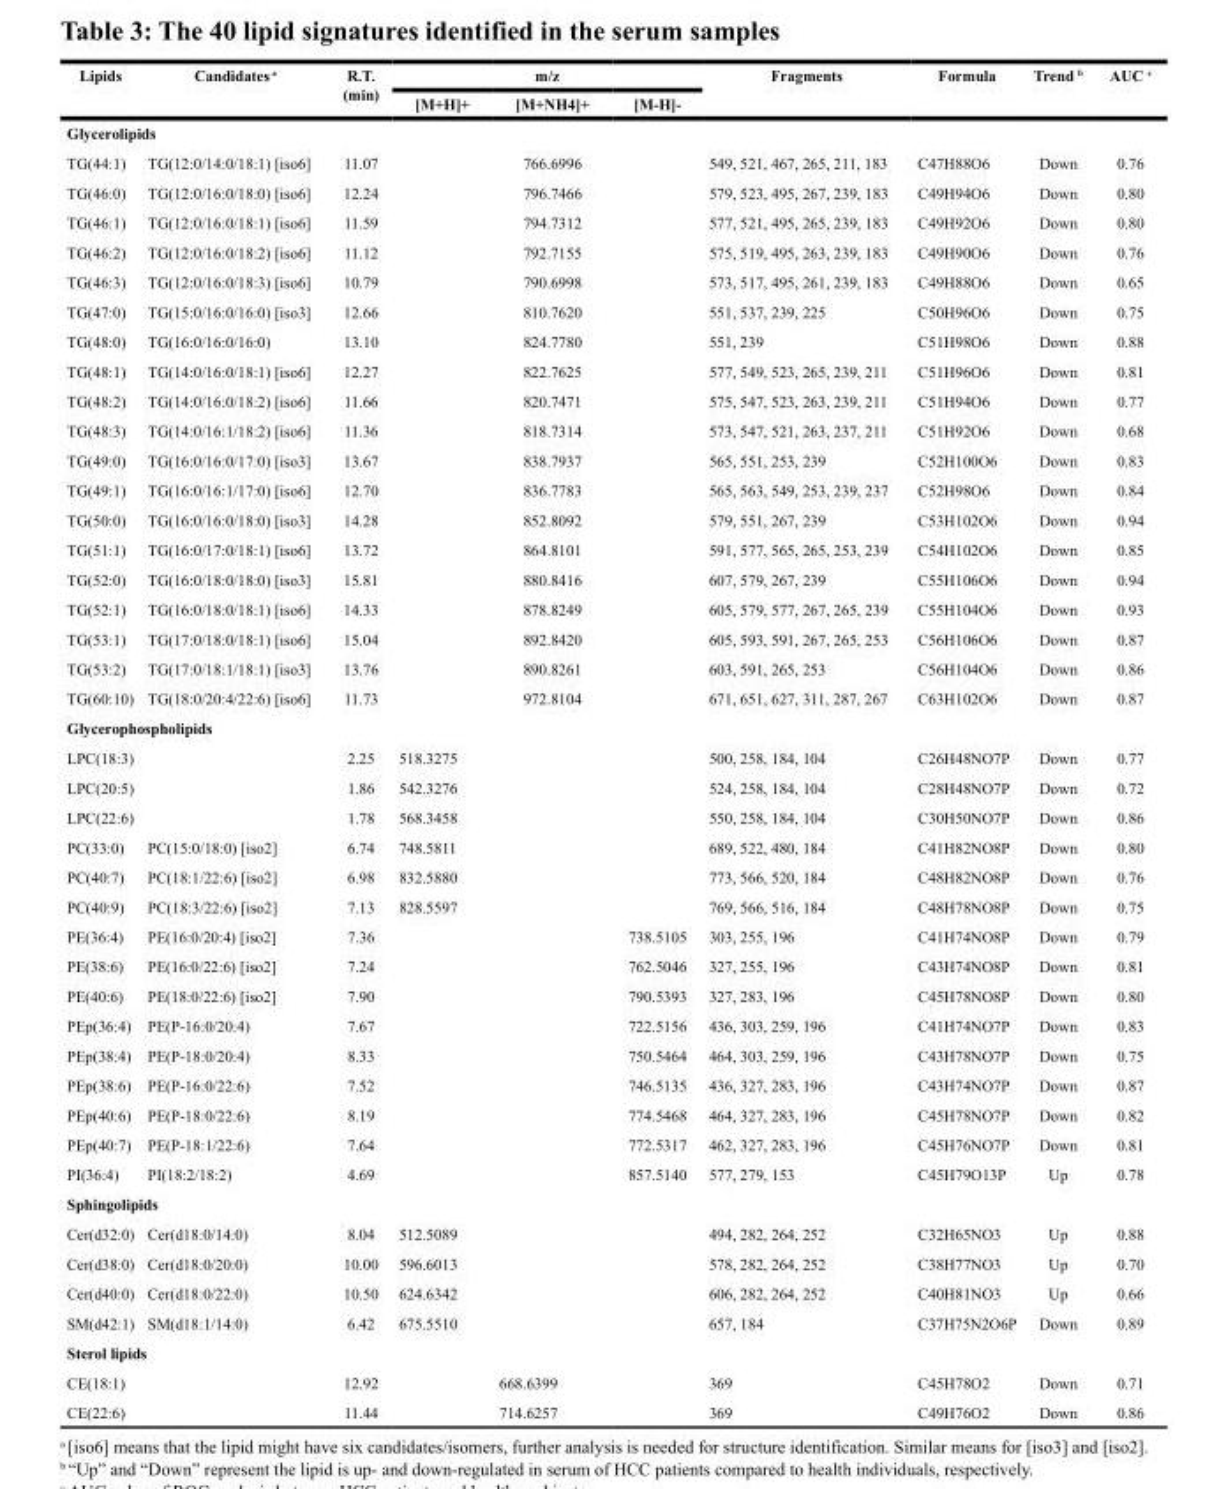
<table><thead><tr><td rowspan="2">Lipids</td><td rowspan="2">Candidates <sup>a</sup></td><td rowspan="2">R.T. (min)</td><td colspan="3">m/z</td><td rowspan="2">Fragments</td><td rowspan="2">Formula</td><td rowspan="2">Trend <sup>b</sup></td><td rowspan="2">AUC <sup>c</sup></td></tr><tr><td>[M+H]+</td><td>[M+NH4]+</td><td>[M-H]-</td></tr></thead><tbody><tr><td colspan="10">Glycerolipids</td></tr><tr><td>TG(44:1)</td><td>TG(12:0/14:0/18:1) [iso6]</td><td>11.07</td><td></td><td>766.6996</td><td></td><td>549, 521, 467, 265, 211, 183</td><td>C47H88O6</td><td>Down</td><td>0.76</td></tr><tr><td>TG(46:0)</td><td>TG(12:0/16:0/18:0) [iso6]</td><td>12.24</td><td></td><td>796.7466</td><td></td><td>579, 523, 495, 267, 239, 183</td><td>C49H94O6</td><td>Down</td><td>0.80</td></tr><tr><td>TG(46:1)</td><td>TG(12:0/16:0/18:1) [iso6]</td><td>11.59</td><td></td><td>794.7312</td><td></td><td>577, 521, 495, 265, 239, 183</td><td>C49H92O6</td><td>Down</td><td>0.80</td></tr><tr><td>TG(46:2)</td><td>TG(12:0/16:0/18:2) [iso6]</td><td>11.12</td><td></td><td>792.7155</td><td></td><td>575, 519, 495, 263, 239, 183</td><td>C49H90O6</td><td>Down</td><td>0.76</td></tr><tr><td>TG(46:3)</td><td>TG(12:0/16:0/18:3) [iso6]</td><td>10.79</td><td></td><td>790.6998</td><td></td><td>573, 517, 495, 261, 239, 183</td><td>C49H88O6</td><td>Down</td><td>0.65</td></tr><tr><td>TG(47:0)</td><td>TG(15:0/16:0/16:0) [iso3]</td><td>12.66</td><td></td><td>810.7620</td><td></td><td>551, 537, 239, 225</td><td>C50H96O6</td><td>Down</td><td>0.75</td></tr><tr><td>TG(48:0)</td><td>TG(16:0/16:0/16:0)</td><td>13.10</td><td></td><td>824.7780</td><td></td><td>551, 239</td><td>C51H98O6</td><td>Down</td><td>0.88</td></tr><tr><td>TG(48:1)</td><td>TG(14:0/16:0/18:1) [iso6]</td><td>12.27</td><td></td><td>822.7625</td><td></td><td>577, 549, 523, 265, 239, 211</td><td>C51H96O6</td><td>Down</td><td>0.81</td></tr><tr><td>TG(48:2)</td><td>TG(14:0/16:0/18:2) [iso6]</td><td>11.66</td><td></td><td>820.7471</td><td></td><td>575, 547, 523, 263, 239, 211</td><td>C51H94O6</td><td>Down</td><td>0.77</td></tr><tr><td>TG(48:3)</td><td>TG(14:0/16:1/18:2) [iso6]</td><td>11.36</td><td></td><td>818.7314</td><td></td><td>573, 547, 521, 263, 237, 211</td><td>C51H92O6</td><td>Down</td><td>0.68</td></tr><tr><td>TG(49:0)</td><td>TG(16:0/16:0/17:0) [iso3]</td><td>13.67</td><td></td><td>838.7937</td><td></td><td>565, 551, 253, 239</td><td>C52H100O6</td><td>Down</td><td>0.83</td></tr><tr><td>TG(49:1)</td><td>TG(16:0/16:1/17:0) [iso6]</td><td>12.70</td><td></td><td>836.7783</td><td></td><td>565, 563, 549, 253, 239, 237</td><td>C52H98O6</td><td>Down</td><td>0.84</td></tr><tr><td>TG(50:0)</td><td>TG(16:0/16:0/18:0) [iso3]</td><td>14.28</td><td></td><td>852.8092</td><td></td><td>579, 551, 267, 239</td><td>C53H102O6</td><td>Down</td><td>0.94</td></tr><tr><td>TG(51:1)</td><td>TG(16:0/17:0/18:1) [iso6]</td><td>13.72</td><td></td><td>864.8101</td><td></td><td>591, 577, 565, 265, 253, 239</td><td>C54H102O6</td><td>Down</td><td>0.85</td></tr><tr><td>TG(52:0)</td><td>TG(16:0/18:0/18:0) [iso3]</td><td>15.81</td><td></td><td>880.8416</td><td></td><td>607, 579, 267, 239</td><td>C55H106O6</td><td>Down</td><td>0.94</td></tr><tr><td>TG(52:1)</td><td>TG(16:0/18:0/18:1) [iso6]</td><td>14.33</td><td></td><td>878.8249</td><td></td><td>605, 579, 577, 267, 265, 239</td><td>C55H104O6</td><td>Down</td><td>0.93</td></tr><tr><td>TG(53:1)</td><td>TG(17:0/18:0/18:1) [iso6]</td><td>15.04</td><td></td><td>892.8420</td><td></td><td>605, 593, 591, 267, 265, 253</td><td>C56H106O6</td><td>Down</td><td>0.87</td></tr><tr><td>TG(53:2)</td><td>TG(17:0/18:1/18:1) [iso3]</td><td>13.76</td><td></td><td>890.8261</td><td></td><td>603, 591, 265, 253</td><td>C56H104O6</td><td>Down</td><td>0.86</td></tr><tr><td>TG(60:10)</td><td>TG(18:0/20:4/22:6) [iso6]</td><td>11.73</td><td></td><td>972.8104</td><td></td><td>671, 651, 627, 311, 287, 267</td><td>C63H102O6</td><td>Down</td><td>0.87</td></tr><tr><td colspan="10">Glycerophospholipids</td></tr><tr><td>LPC(18:3)</td><td></td><td>2.25</td><td>518.3275</td><td></td><td></td><td>500, 258, 184, 104</td><td>C26H48NO7P</td><td>Down</td><td>0.77</td></tr><tr><td>LPC(20:5)</td><td></td><td>1.86</td><td>542.3276</td><td></td><td></td><td>524, 258, 184, 104</td><td>C28H48NO7P</td><td>Down</td><td>0.72</td></tr><tr><td>LPC(22:6)</td><td></td><td>1.78</td><td>568.3458</td><td></td><td></td><td>550, 258, 184, 104</td><td>C30H50NO7P</td><td>Down</td><td>0.86</td></tr><tr><td>PC(33:0)</td><td>PC(15:0/18:0) [iso2]</td><td>6.74</td><td>748.5811</td><td></td><td></td><td>689, 522, 480, 184</td><td>C41H82NO8P</td><td>Down</td><td>0.80</td></tr><tr><td>PC(40:7)</td><td>PC(18:1/22:6) [iso2]</td><td>6.98</td><td>832.5880</td><td></td><td></td><td>773, 566, 520, 184</td><td>C48H82NO8P</td><td>Down</td><td>0.76</td></tr><tr><td>PC(40:9)</td><td>PC(18:3/22:6) [iso2]</td><td>7.13</td><td>828.5597</td><td></td><td></td><td>769, 566, 516, 184</td><td>C48H78NO8P</td><td>Down</td><td>0.75</td></tr><tr><td>PE(36:4)</td><td>PE(16:0/20:4) [iso2]</td><td>7.36</td><td></td><td></td><td>738.5105</td><td>303, 255, 196</td><td>C41H74NO8P</td><td>Down</td><td>0.79</td></tr><tr><td>PE(38:6)</td><td>PE(16:0/22:6) [iso2]</td><td>7.24</td><td></td><td></td><td>762.5046</td><td>327, 255, 196</td><td>C43H74NO8P</td><td>Down</td><td>0.81</td></tr><tr><td>PE(40:6)</td><td>PE(18:0/22:6) [iso2]</td><td>7.90</td><td></td><td></td><td>790.5393</td><td>327, 283, 196</td><td>C45H78NO8P</td><td>Down</td><td>0.80</td></tr><tr><td>PEp(36:4)</td><td>PE(P-16:0/20:4)</td><td>7.67</td><td></td><td></td><td>722.5156</td><td>436, 303, 259, 196</td><td>C41H74NO7P</td><td>Down</td><td>0.83</td></tr><tr><td>PEp(38:4)</td><td>PE(P-18:0/20:4)</td><td>8.33</td><td></td><td></td><td>750.5464</td><td>464, 303, 259, 196</td><td>C43H78NO7P</td><td>Down</td><td>0.75</td></tr><tr><td>PEp(38:6)</td><td>PE(P-16:0/22:6)</td><td>7.52</td><td></td><td></td><td>746.5135</td><td>436, 327, 283, 196</td><td>C43H74NO7P</td><td>Down</td><td>0.87</td></tr><tr><td>PEp(40:6)</td><td>PE(P-18:0/22:6)</td><td>8.19</td><td></td><td></td><td>774.5468</td><td>464, 327, 283, 196</td><td>C45H78NO7P</td><td>Down</td><td>0.82</td></tr><tr><td>PEp(40:7)</td><td>PE(P-18:1/22:6)</td><td>7.64</td><td></td><td></td><td>772.5317</td><td>462, 327, 283, 196</td><td>C45H76NO7P</td><td>Down</td><td>0.81</td></tr><tr><td>PI(36:4)</td><td>PI(18:2/18:2)</td><td>4.69</td><td></td><td></td><td>857.5140</td><td>577, 279, 153</td><td>C45H79O13P</td><td>Up</td><td>0.78</td></tr><tr><td colspan="10">Sphingolipids</td></tr><tr><td>Cer(d32:0)</td><td>Cer(d18:0/14:0)</td><td>8.04</td><td>512.5089</td><td></td><td></td><td>494, 282, 264, 252</td><td>C32H65NO3</td><td>Up</td><td>0.88</td></tr><tr><td>Cer(d38:0)</td><td>Cer(d18:0/20:0)</td><td>10.00</td><td>596.6013</td><td></td><td></td><td>578, 282, 264, 252</td><td>C38H77NO3</td><td>Up</td><td>0.70</td></tr><tr><td>Cer(d40:0)</td><td>Cer(d18:0/22:0)</td><td>10.50</td><td>624.6342</td><td></td><td></td><td>606, 282, 264, 252</td><td>C40H81NO3</td><td>Up</td><td>0.66</td></tr><tr><td>SM(d42:1)</td><td>SM(d18:1/14:0)</td><td>6.42</td><td>675.5510</td><td></td><td></td><td>657, 184</td><td>C37H75N2O6P</td><td>Down</td><td>0.89</td></tr><tr><td colspan="10">Sterol lipids</td></tr><tr><td>CE(18:1)</td><td></td><td>12.92</td><td></td><td>668.6399</td><td></td><td>369</td><td>C45H78O2</td><td>Down</td><td>0.71</td></tr><tr><td>CE(22:6)</td><td></td><td>11.44</td><td></td><td>714.6257</td><td></td><td>369</td><td>C49H76O2</td><td>Down</td><td>0.86</td></tr></tbody></table>